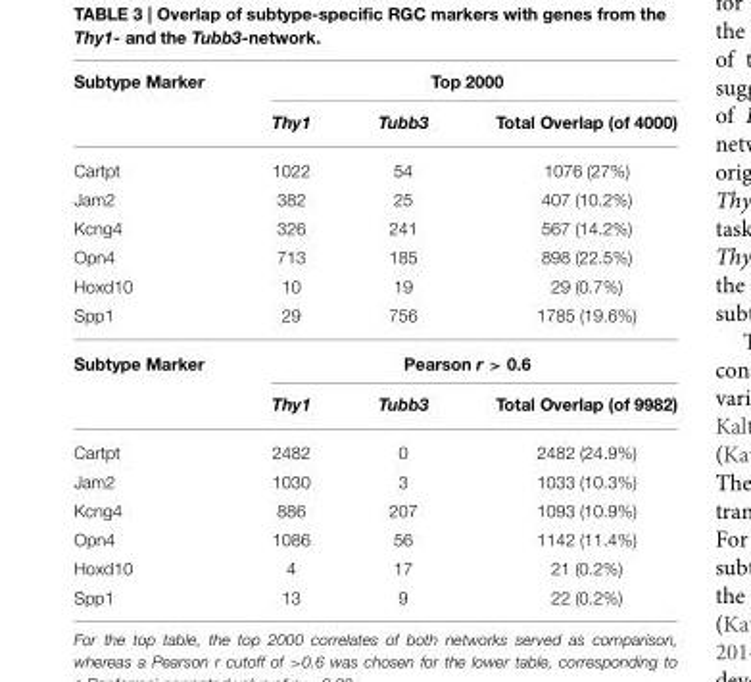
<table><thead><tr><td rowspan="2">Subtype Marker</td><td colspan="3">Top 2000</td></tr><tr><td>Thy1</td><td>Tubb3</td><td>Total Overlap (of 4000)</td></tr></thead><tbody><tr><td>Cartpt</td><td>1022</td><td>54</td><td>1076 (27%)</td></tr><tr><td>Jam2</td><td>382</td><td>25</td><td>407 (10.2%)</td></tr><tr><td>Kcng4</td><td>326</td><td>241</td><td>567 (14.2%)</td></tr><tr><td>Opn4</td><td>713</td><td>185</td><td>898 (22.5%)</td></tr><tr><td>Hoxd10</td><td>10</td><td>19</td><td>29 (0.7%)</td></tr><tr><td>Spp1</td><td>29</td><td>756</td><td>1785 (19.6%)</td></tr><tr><td rowspan="2">Subtype Marker</td><td colspan="3">Pearson r &gt; 0.6</td></tr><tr><td>Thy1</td><td>Tubb3</td><td>Total Overlap (of 9982)</td></tr><tr><td>Cartpt</td><td>2482</td><td>0</td><td>2482 (24.9%)</td></tr><tr><td>Jam2</td><td>1030</td><td>3</td><td>1033 (10.3%)</td></tr><tr><td>Kcng4</td><td>886</td><td>207</td><td>1093 (10.9%)</td></tr><tr><td>Opn4</td><td>1086</td><td>56</td><td>1142 (11.4%)</td></tr><tr><td>Hoxd10</td><td>4</td><td>17</td><td>21 (0.2%)</td></tr><tr><td>Spp1</td><td>13</td><td>9</td><td>22 (0.2%)</td></tr></tbody></table>